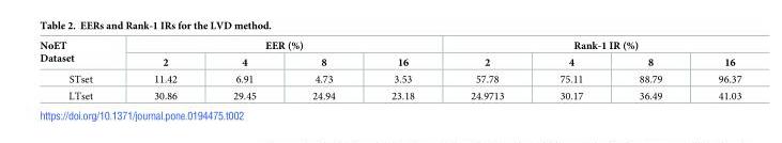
<table><thead><tr><td rowspan="2">NoET Dataset</td><td colspan="4">EER (%)</td><td colspan="4">Rank-1 IR (%)</td></tr><tr><td>2</td><td>4</td><td>8</td><td>16</td><td>2</td><td>4</td><td>8</td><td>16</td></tr></thead><tbody><tr><td>STset</td><td>11.42</td><td>6.91</td><td>4.73</td><td>3.53</td><td>57.78</td><td>75.11</td><td>88.79</td><td>96.37</td></tr><tr><td>LTset</td><td>30.86</td><td>29.45</td><td>24.94</td><td>23.18</td><td>24.9713</td><td>30.17</td><td>36.49</td><td>41.03</td></tr></tbody></table>